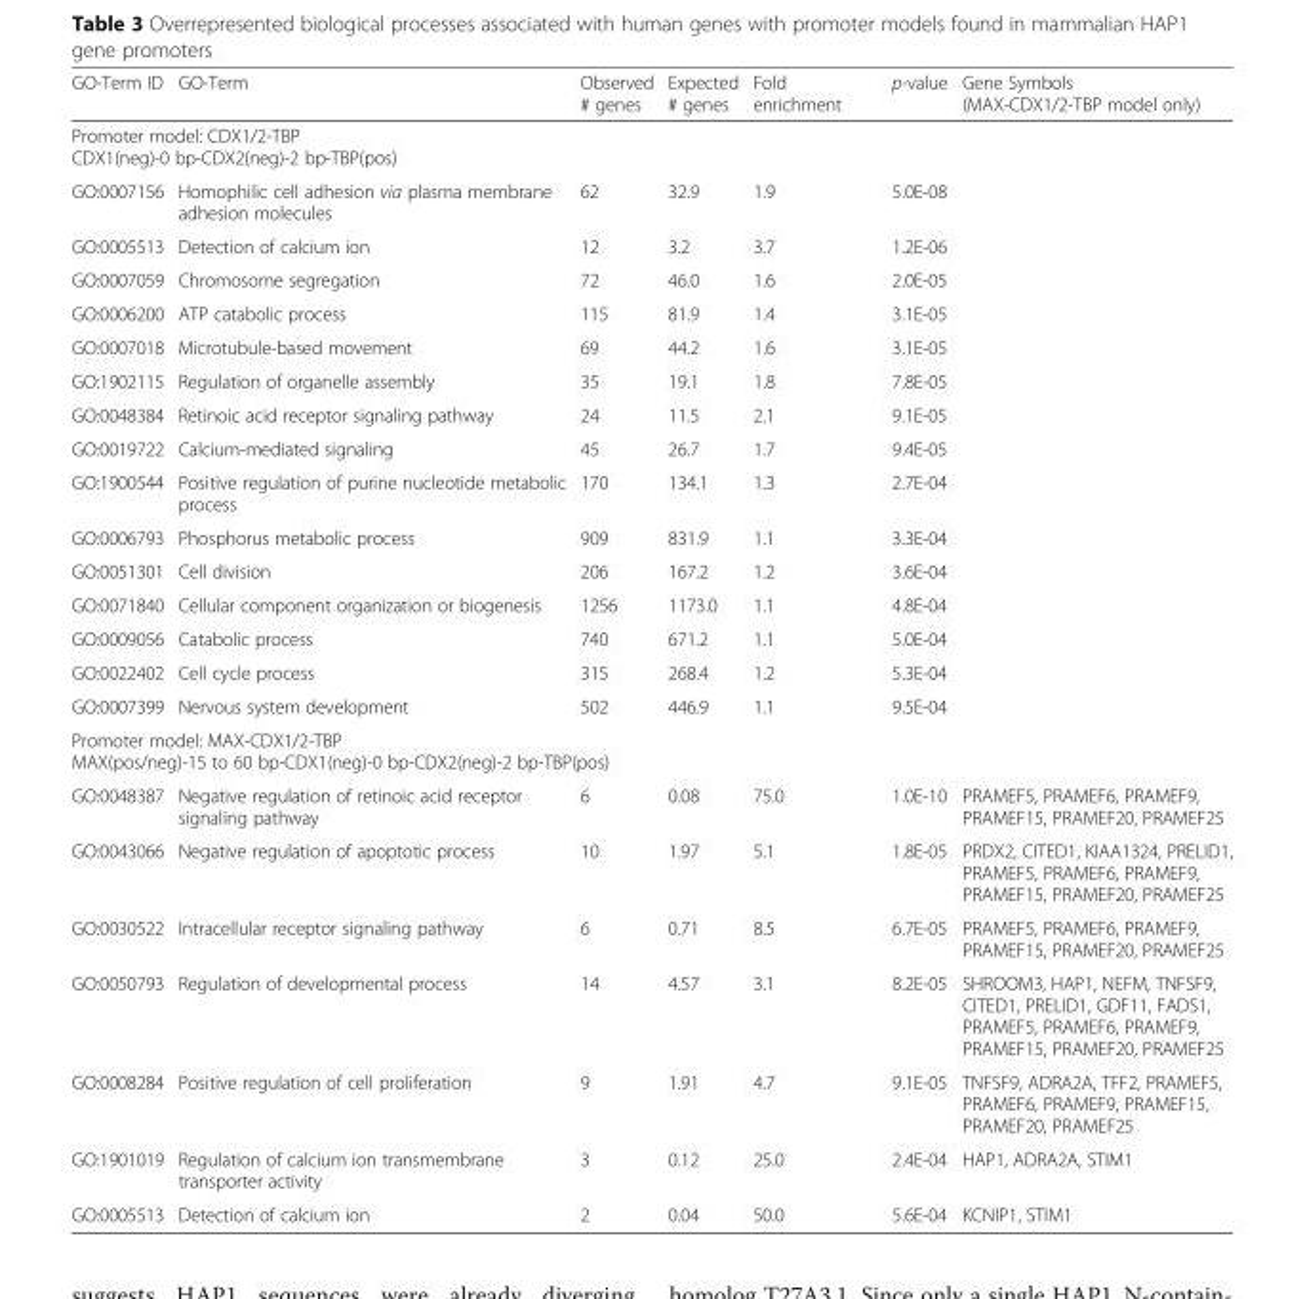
<table><thead><tr><td>GO-Term ID</td><td>GO-Term</td><td>Observed # genes</td><td>Expected # genes</td><td>Fold enrichment</td><td>p-value</td><td>Gene Symbols (MAX-CDX1/2-TBP model only)</td></tr></thead><tbody><tr><td colspan="7">Promoter model: CDX1/2-TBP CDX1(neg)-0 bp-CDX2(neg)-2 bp-TBP(pos)</td></tr><tr><td>GO:0007156</td><td>Homophilic cell adhesion via plasma membrane adhesion molecules</td><td>62</td><td>32.9</td><td>1.9</td><td>5.0E-08</td><td></td></tr><tr><td>GO:0005513</td><td>Detection of calcium ion</td><td>12</td><td>3.2</td><td>3.7</td><td>1.2E-06</td><td></td></tr><tr><td>GO:0007059</td><td>Chromosome segregation</td><td>72</td><td>46.0</td><td>1.6</td><td>2.0E-05</td><td></td></tr><tr><td>GO:0006200</td><td>ATP catabolic process</td><td>115</td><td>81.9</td><td>1.4</td><td>3.1E-05</td><td></td></tr><tr><td>GO:0007018</td><td>Microtubule-based movement</td><td>69</td><td>44.2</td><td>1.6</td><td>3.1E-05</td><td></td></tr><tr><td>GO:1902115</td><td>Regulation of organelle assembly</td><td>35</td><td>19.1</td><td>1.8</td><td>7.8E-05</td><td></td></tr><tr><td>GO:0048384</td><td>Retinoic acid receptor signaling pathway</td><td>24</td><td>11.5</td><td>2.1</td><td>9.1E-05</td><td></td></tr><tr><td>GO:0019722</td><td>Calcium-mediated signaling</td><td>45</td><td>26.7</td><td>1.7</td><td>9.4E-05</td><td></td></tr><tr><td>GO:1900544</td><td>Positive regulation of purine nucleotide metabolic process</td><td>170</td><td>134.1</td><td>1.3</td><td>2.7E-04</td><td></td></tr><tr><td>GO:0006793</td><td>Phosphorus metabolic process</td><td>909</td><td>831.9</td><td>1.1</td><td>3.3E-04</td><td></td></tr><tr><td>GO:0051301</td><td>Cell division</td><td>206</td><td>167.2</td><td>1.2</td><td>3.6E-04</td><td></td></tr><tr><td>GO:0071840</td><td>Cellular component organization or biogenesis</td><td>1256</td><td>1173.0</td><td>1.1</td><td>4.8E-04</td><td></td></tr><tr><td>GO:0009056</td><td>Catabolic process</td><td>740</td><td>671.2</td><td>1.1</td><td>5.0E-04</td><td></td></tr><tr><td>GO:0022402</td><td>Cell cycle process</td><td>315</td><td>268.4</td><td>1.2</td><td>5.3E-04</td><td></td></tr><tr><td>GO:0007399</td><td>Nervous system development</td><td>502</td><td>446.9</td><td>1.1</td><td>9.5E-04</td><td></td></tr><tr><td colspan="7">Promoter model: MAX-CDX1/2-TBP MAX(pos/neg)-15 to 60 bp-CDX1(neg)-0 bp-CDX2(neg)-2 bp-TBP(pos)</td></tr><tr><td>GO:0048387</td><td>Negative regulation of retinoic acid receptor signaling pathway</td><td>6</td><td>0.08</td><td>75.0</td><td>1.0E-10</td><td>PRAMEF5, PRAMEF6, PRAMEF9, PRAMEF15, PRAMEF20, PRAMEF25</td></tr><tr><td>GO:0043066</td><td>Negative regulation of apoptotic process</td><td>10</td><td>1.97</td><td>5.1</td><td>1.8E-05</td><td>PRDX2, CITED1, KIAA1324, PRELID1, PRAMEF5, PRAMEF6, PRAMEF9, PRAMEF15, PRAMEF20, PRAMEF25</td></tr><tr><td>GO:0030522</td><td>Intracellular receptor signaling pathway</td><td>6</td><td>0.71</td><td>8.5</td><td>6.7E-05</td><td>PRAMEF5, PRAMEF6, PRAMEF9, PRAMEF15, PRAMEF20, PRAMEF25</td></tr><tr><td>GO:0050793</td><td>Regulation of developmental process</td><td>14</td><td>4.57</td><td>3.1</td><td>8.2E-05</td><td>SHROOM3, HAP1, NEFM, TNFSF9, CITED1, PRELID1, GDF11, FADS1, PRAMEF5, PRAMEF6, PRAMEF9, PRAMEF15, PRAMEF20, PRAMEF25</td></tr><tr><td>GO:0008284</td><td>Positive regulation of cell proliferation</td><td>9</td><td>1.91</td><td>4.7</td><td>9.1E-05</td><td>TNFSF9, ADRA2A, TFF2, PRAMEF5, PRAMEF6, PRAMEF9, PRAMEF15, PRAMEF20, PRAMEF25</td></tr><tr><td>GO:1901019</td><td>Regulation of calcium ion transmembrane transporter activity</td><td>3</td><td>0.12</td><td>25.0</td><td>2.4E-04</td><td>HAP1, ADRA2A, STIM1</td></tr><tr><td>GO:0005513</td><td>Detection of calcium ion</td><td>2</td><td>0.04</td><td>50.0</td><td>5.6E-04</td><td>KCNIP1, STIM1</td></tr></tbody></table>